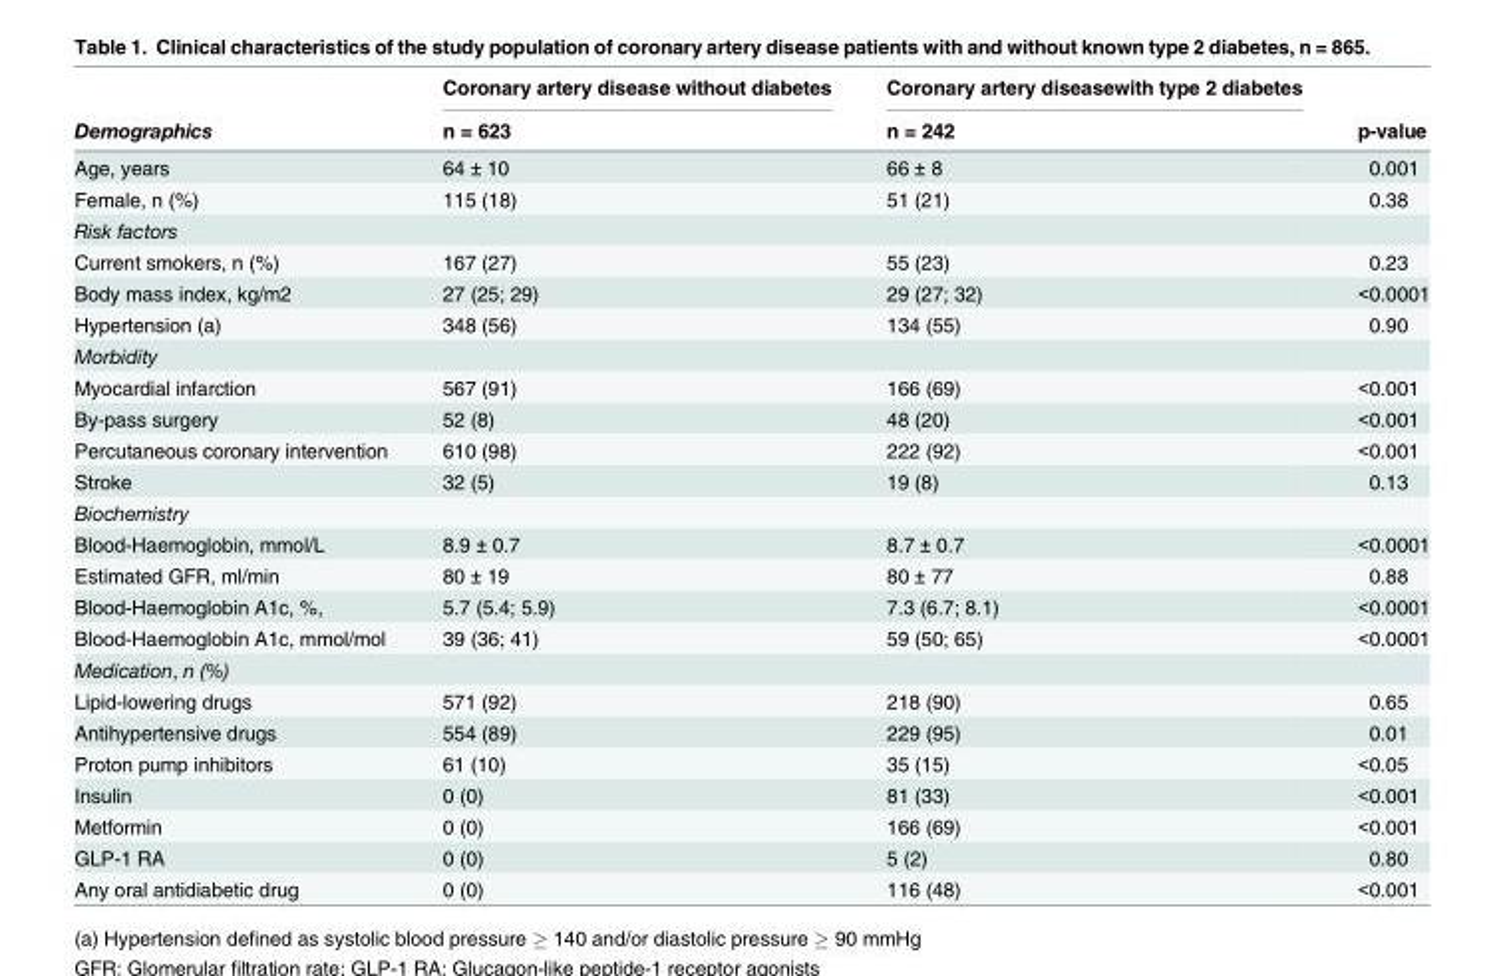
<table><thead><tr><td rowspan="2">Demographics</td><td rowspan="2">Coronary artery disease without diabetes n = 623</td><td rowspan="2">Coronary artery diseasewith type 2 diabetes n = 242</td><td rowspan="2">p-value</td></tr><tr></tr></thead><tbody><tr><td>Age, years</td><td>64 ± 10</td><td>66 ± 8</td><td>0.001</td></tr><tr><td>Female, n (%)</td><td>115 (18)</td><td>51 (21)</td><td>0.38</td></tr><tr><td colspan="4">Risk factors</td></tr><tr><td>Current smokers, n (%)</td><td>167 (27)</td><td>55 (23)</td><td>0.23</td></tr><tr><td>Body mass index, kg/m2</td><td>27 (25; 29)</td><td>29 (27; 32)</td><td>&lt;0.0001</td></tr><tr><td>Hypertension (a)</td><td>348 (56)</td><td>134 (55)</td><td>0.90</td></tr><tr><td colspan="4">Morbidity</td></tr><tr><td>Myocardial infarction</td><td>567 (91)</td><td>166 (69)</td><td>&lt;0.001</td></tr><tr><td>By-pass surgery</td><td>52 (8)</td><td>48 (20)</td><td>&lt;0.001</td></tr><tr><td>Percutaneous coronary intervention</td><td>610 (98)</td><td>222 (92)</td><td>&lt;0.001</td></tr><tr><td>Stroke</td><td>32 (5)</td><td>19 (8)</td><td>0.13</td></tr><tr><td colspan="4">Biochemistry</td></tr><tr><td>Blood-Haemoglobin, mmol/L</td><td>8.9 ± 0.7</td><td>8.7 ± 0.7</td><td>&lt;0.0001</td></tr><tr><td>Estimated GFR, ml/min</td><td>80 ± 19</td><td>80 ± 77</td><td>0.88</td></tr><tr><td>Blood-Haemoglobin A1c, %,</td><td>5.7 (5.4; 5.9)</td><td>7.3 (6.7; 8.1)</td><td>&lt;0.0001</td></tr><tr><td>Blood-Haemoglobin A1c, mmol/mol</td><td>39 (36; 41)</td><td>59 (50; 65)</td><td>&lt;0.0001</td></tr><tr><td colspan="4">Medication, n (%)</td></tr><tr><td>Lipid-lowering drugs</td><td>571 (92)</td><td>218 (90)</td><td>0.65</td></tr><tr><td>Antihypertensive drugs</td><td>554 (89)</td><td>229 (95)</td><td>0.01</td></tr><tr><td>Proton pump inhibitors</td><td>61 (10)</td><td>35 (15)</td><td>&lt;0.05</td></tr><tr><td>Insulin</td><td>0 (0)</td><td>81 (33)</td><td>&lt;0.001</td></tr><tr><td>Metformin</td><td>0 (0)</td><td>166 (69)</td><td>&lt;0.001</td></tr><tr><td>GLP-1 RA</td><td>0 (0)</td><td>5 (2)</td><td>0.80</td></tr><tr><td>Any oral antidiabetic drug</td><td>0 (0)</td><td>116 (48)</td><td>&lt;0.001</td></tr></tbody></table>